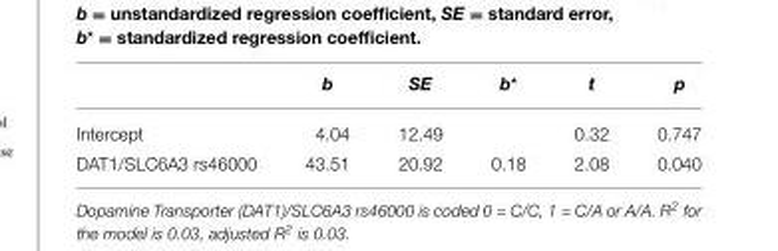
<table><thead><tr><td></td><td>b</td><td>SE</td><td>b*</td><td>t</td><td>p</td></tr></thead><tbody><tr><td>Intercept</td><td>4.04</td><td>12.49</td><td></td><td>0.32</td><td>0.747</td></tr><tr><td>DAT1/SLC6A3 rs46000</td><td>43.51</td><td>20.92</td><td>0.18</td><td>2.08</td><td>0.040</td></tr></tbody></table>